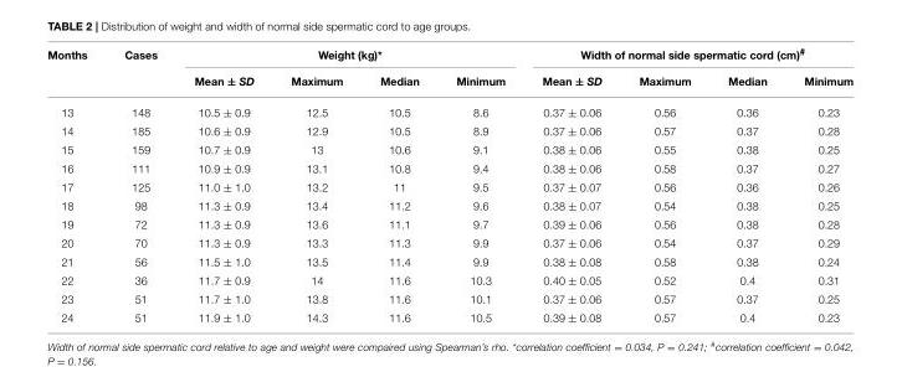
<table><thead><tr><td rowspan="2">Months</td><td rowspan="2">Cases</td><td colspan="4">Weight (kg)*</td><td colspan="4">Width of normal side spermatic cord (cm)<sup>#</sup></td></tr><tr><td>Mean ± SD</td><td>Maximum</td><td>Median</td><td>Minimum</td><td>Mean ± SD</td><td>Maximum</td><td>Median</td><td>Minimum</td></tr></thead><tbody><tr><td>13</td><td>148</td><td>10.5 ± 0.9</td><td>12.5</td><td>10.5</td><td>8.6</td><td>0.37 ± 0.06</td><td>0.56</td><td>0.36</td><td>0.23</td></tr><tr><td>14</td><td>185</td><td>10.6 ± 0.9</td><td>12.9</td><td>10.5</td><td>8.9</td><td>0.37 ± 0.06</td><td>0.57</td><td>0.37</td><td>0.28</td></tr><tr><td>15</td><td>159</td><td>10.7 ± 0.9</td><td>13</td><td>10.6</td><td>9.1</td><td>0.38 ± 0.06</td><td>0.55</td><td>0.38</td><td>0.25</td></tr><tr><td>16</td><td>111</td><td>10.9 ± 0.9</td><td>13.1</td><td>10.8</td><td>9.4</td><td>0.38 ± 0.06</td><td>0.58</td><td>0.37</td><td>0.27</td></tr><tr><td>17</td><td>125</td><td>11.0 ± 1.0</td><td>13.2</td><td>11</td><td>9.5</td><td>0.37 ± 0.07</td><td>0.56</td><td>0.36</td><td>0.26</td></tr><tr><td>18</td><td>98</td><td>11.3 ± 0.9</td><td>13.4</td><td>11.2</td><td>9.6</td><td>0.38 ± 0.07</td><td>0.54</td><td>0.38</td><td>0.25</td></tr><tr><td>19</td><td>72</td><td>11.3 ± 0.9</td><td>13.6</td><td>11.1</td><td>9.7</td><td>0.39 ± 0.06</td><td>0.56</td><td>0.38</td><td>0.28</td></tr><tr><td>20</td><td>70</td><td>11.3 ± 0.9</td><td>13.3</td><td>11.3</td><td>9.9</td><td>0.37 ± 0.06</td><td>0.54</td><td>0.37</td><td>0.29</td></tr><tr><td>21</td><td>56</td><td>11.5 ± 1.0</td><td>13.5</td><td>11.4</td><td>9.9</td><td>0.38 ± 0.08</td><td>0.58</td><td>0.38</td><td>0.24</td></tr><tr><td>22</td><td>36</td><td>11.7 ± 0.9</td><td>14</td><td>11.6</td><td>10.3</td><td>0.40 ± 0.05</td><td>0.52</td><td>0.4</td><td>0.31</td></tr><tr><td>23</td><td>51</td><td>11.7 ± 1.0</td><td>13.8</td><td>11.6</td><td>10.1</td><td>0.37 ± 0.06</td><td>0.57</td><td>0.37</td><td>0.25</td></tr><tr><td>24</td><td>51</td><td>11.9 ± 1.0</td><td>14.3</td><td>11.6</td><td>10.5</td><td>0.39 ± 0.08</td><td>0.57</td><td>0.4</td><td>0.23</td></tr></tbody></table>